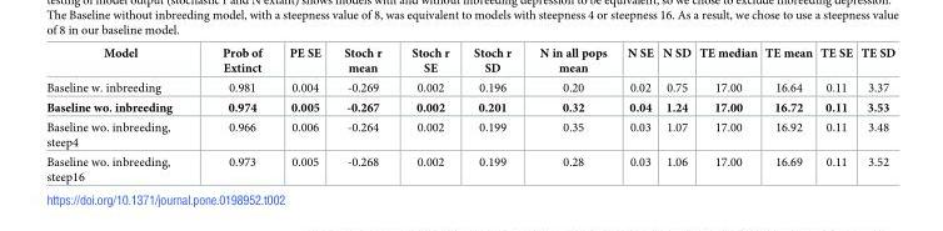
<table><thead><tr><td>Model</td><td>Prob of Extinct</td><td>PE SE</td><td>Stoch r mean</td><td>Stoch r SE</td><td>Stoch r SD</td><td>N in all pops mean</td><td>N SE</td><td>N SD</td><td>TE median</td><td>TE mean</td><td>TE SE</td><td>TE SD</td></tr></thead><tbody><tr><td>Baseline w. inbreeding</td><td>0.981</td><td>0.004</td><td>-0.269</td><td>0.002</td><td>0.196</td><td>0.20</td><td>0.02</td><td>0.75</td><td>17.00</td><td>16.64</td><td>0.11</td><td>3.37</td></tr><tr><td>Baseline wo. inbreeding</td><td>0.974</td><td>0.005</td><td>-0.267</td><td>0.002</td><td>0.201</td><td>0.32</td><td>0.04</td><td>1.24</td><td>17.00</td><td>16.72</td><td>0.11</td><td>3.53</td></tr><tr><td>Baseline wo. inbreeding, steep4</td><td>0.966</td><td>0.006</td><td>-0.264</td><td>0.002</td><td>0.199</td><td>0.35</td><td>0.03</td><td>1.07</td><td>17.00</td><td>16.92</td><td>0.11</td><td>3.48</td></tr><tr><td>Baseline wo. inbreeding, steep16</td><td>0.973</td><td>0.005</td><td>-0.268</td><td>0.002</td><td>0.199</td><td>0.28</td><td>0.03</td><td>1.06</td><td>17.00</td><td>16.69</td><td>0.11</td><td>3.52</td></tr></tbody></table>